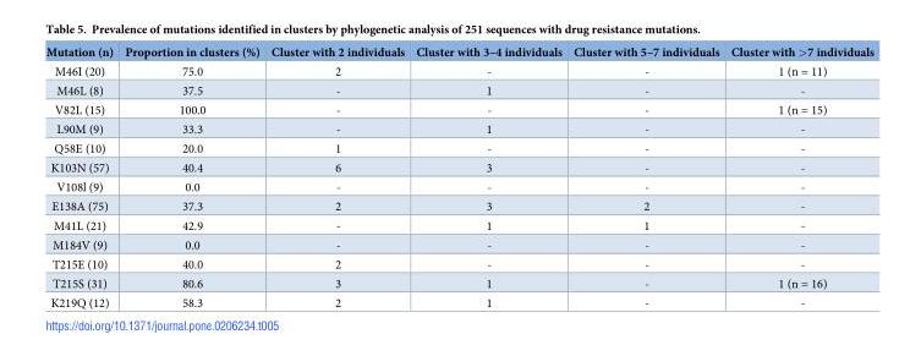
<table><thead><tr><td>Mutation (n)</td><td>Proportion in clusters (%)</td><td>Cluster with 2 individuals</td><td>Cluster with 3–4 individuals</td><td>Cluster with 5–7 individuals</td><td>Cluster with &gt;7 individuals</td></tr></thead><tbody><tr><td>M46I (20)</td><td>75.0</td><td>2</td><td>-</td><td>-</td><td>1 (n = 11)</td></tr><tr><td>M46L (8)</td><td>37.5</td><td>-</td><td>1</td><td>-</td><td>-</td></tr><tr><td>V82L (15)</td><td>100.0</td><td>-</td><td>-</td><td>-</td><td>1 (n = 15)</td></tr><tr><td>L90M (9)</td><td>33.3</td><td>-</td><td>1</td><td>-</td><td>-</td></tr><tr><td>Q58E (10)</td><td>20.0</td><td>1</td><td>-</td><td>-</td><td>-</td></tr><tr><td>K103N (57)</td><td>40.4</td><td>6</td><td>3</td><td>-</td><td>-</td></tr><tr><td>V108l (9)</td><td>0.0</td><td>-</td><td>-</td><td>-</td><td>-</td></tr><tr><td>E138A (75)</td><td>37.3</td><td>2</td><td>3</td><td>2</td><td>-</td></tr><tr><td>M41L (21)</td><td>42.9</td><td>-</td><td>1</td><td>1</td><td>-</td></tr><tr><td>M184V (9)</td><td>0.0</td><td>-</td><td>-</td><td>-</td><td>-</td></tr><tr><td>T215E (10)</td><td>40.0</td><td>2</td><td>-</td><td>-</td><td>-</td></tr><tr><td>T215S (31)</td><td>80.6</td><td>3</td><td>1</td><td>-</td><td>1 (n = 16)</td></tr><tr><td>K219Q (12)</td><td>58.3</td><td>2</td><td>1</td><td>-</td><td>-</td></tr></tbody></table>